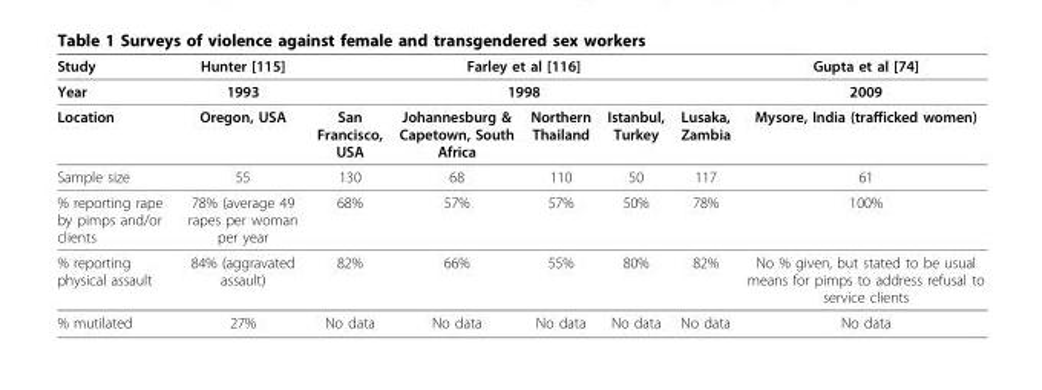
<table><thead><tr><td rowspan="3">Study Year Location</td><td rowspan="3">Hunter [115] 1993 Oregon, USA</td><td rowspan="2" colspan="5">Farley et al [116] 1998</td><td rowspan="3">Gupta et al [74] 2009 Mysore, India (trafficked women)</td></tr><tr></tr><tr><td>San Francisco, USA</td><td>Johannesburg &amp; Capetown, South Africa</td><td>Northern Thailand</td><td>Istanbul, Turkey</td><td>Lusaka, Zambia</td></tr></thead><tbody><tr><td>Sample size</td><td>55</td><td>130</td><td>68</td><td>110</td><td>50</td><td>117</td><td>61</td></tr><tr><td>% reporting rape by pimps and/or clients</td><td>78% (average 49 rapes per woman per year</td><td>68%</td><td>57%</td><td>57%</td><td>50%</td><td>78%</td><td>100%</td></tr><tr><td>% reporting physical assault</td><td>84% (aggravated assault)</td><td>82%</td><td>66%</td><td>55%</td><td>80%</td><td>82%</td><td>No % given, but stated to be usual means for pimps to address refusal to service clients</td></tr><tr><td>% mutilated</td><td>27%</td><td>No data</td><td>No data</td><td>No data</td><td>No data</td><td>No data</td><td>No data</td></tr></tbody></table>